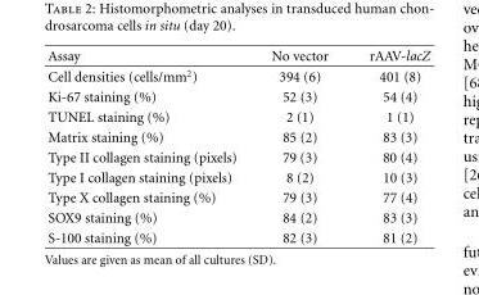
<table><thead><tr><td>Assay</td><td>No vector</td><td>rAAV-lacZ</td></tr></thead><tbody><tr><td>Cell densities (cells/mm<sup>2</sup>)</td><td>394 (6)</td><td>401 (8)</td></tr><tr><td>Ki-67 staining (%)</td><td>52 (3)</td><td>54 (4)</td></tr><tr><td>TUNEL staining (%)</td><td>2 (1)</td><td>1 (1)</td></tr><tr><td>Matrix staining (%)</td><td>85 (2)</td><td>83 (3)</td></tr><tr><td>Type II collagen staining (pixels)</td><td>79 (3)</td><td>80 (4)</td></tr><tr><td>Type I collagen staining (pixels)</td><td>8 (2)</td><td>10 (3)</td></tr><tr><td>Type X collagen staining (%)</td><td>79 (3)</td><td>77 (4)</td></tr><tr><td>SOX9 staining (%)</td><td>84 (2)</td><td>83 (3)</td></tr><tr><td>S-100 staining (%)</td><td>82 (3)</td><td>81 (2)</td></tr></tbody></table>